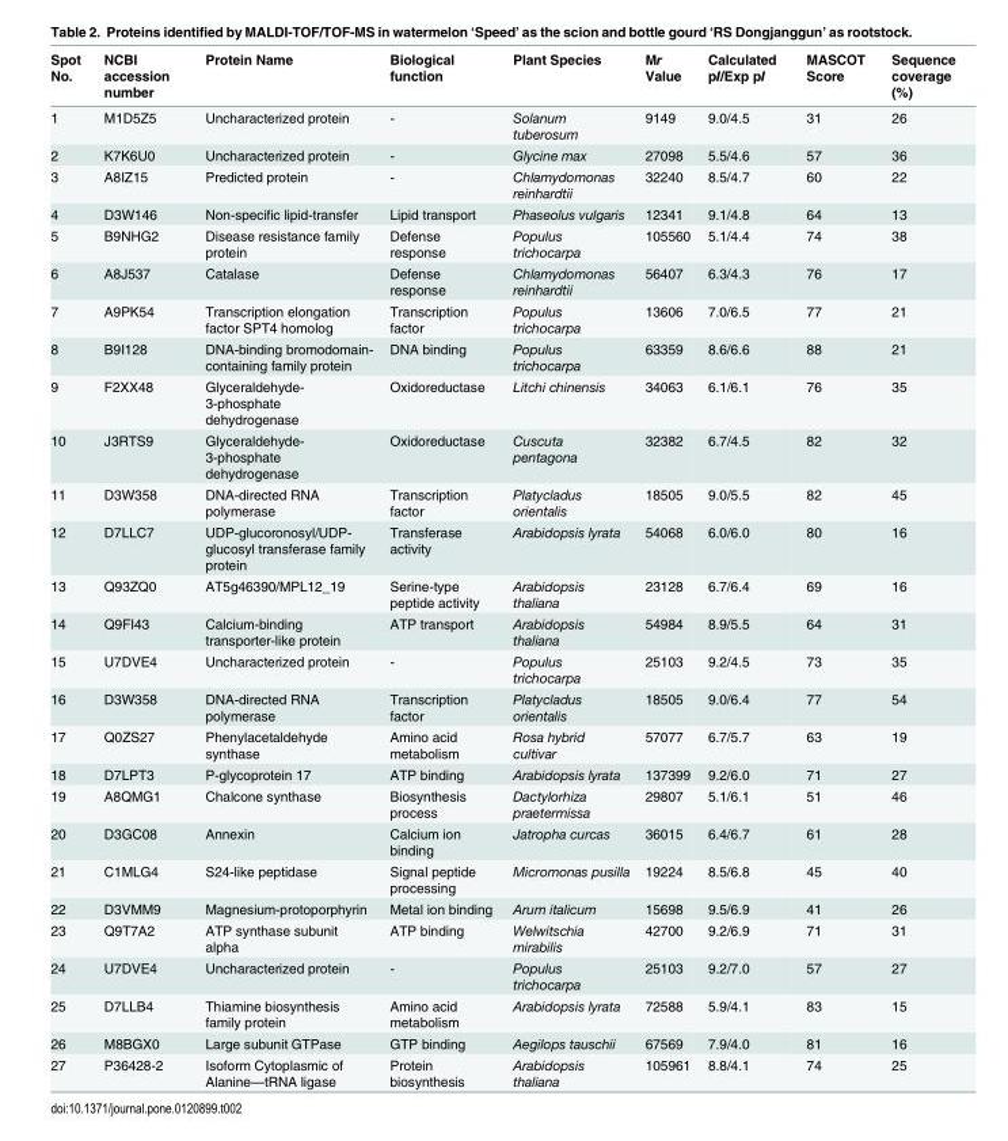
<table><thead><tr><td>Spot No.</td><td>NCBI accession number</td><td>Protein Name</td><td>Biological function</td><td>Plant Species</td><td>Mr Value</td><td>Calculated pI/Exp pI</td><td>MASCOT Score</td><td>Sequence coverage (%)</td></tr></thead><tbody><tr><td>1</td><td>M1D5Z5</td><td>Uncharacterized protein</td><td>-</td><td>Solanum tuberosum</td><td>9149</td><td>9.0/4.5</td><td>31</td><td>26</td></tr><tr><td>2</td><td>K7K6U0</td><td>Uncharacterized protein</td><td>-</td><td>Glycine max</td><td>27098</td><td>5.5/4.6</td><td>57</td><td>36</td></tr><tr><td>3</td><td>A8IZ15</td><td>Predicted protein</td><td>-</td><td>Chlamydomonas reinhardtii</td><td>32240</td><td>8.5/4.7</td><td>60</td><td>22</td></tr><tr><td>4</td><td>D3W146</td><td>Non-specific lipid-transfer</td><td>Lipid transport</td><td>Phaseolus vulgaris</td><td>12341</td><td>9.1/4.8</td><td>64</td><td>13</td></tr><tr><td>5</td><td>B9NHG2</td><td>Disease resistance family protein</td><td>Defense response</td><td>Populus trichocarpa</td><td>105560</td><td>5.1/4.4</td><td>74</td><td>38</td></tr><tr><td>6</td><td>A8J537</td><td>Catalase</td><td>Defense response</td><td>Chlamydomonas reinhardtii</td><td>56407</td><td>6.3/4.3</td><td>76</td><td>17</td></tr><tr><td>7</td><td>A9PK54</td><td>Transcription elongation factor SPT4 homolog</td><td>Transcription factor</td><td>Populus trichocarpa</td><td>13606</td><td>7.0/6.5</td><td>77</td><td>21</td></tr><tr><td>8</td><td>B9I128</td><td>DNA-binding bromodomain- containing family protein</td><td>DNA binding</td><td>Populus trichocarpa</td><td>63359</td><td>8.6/6.6</td><td>88</td><td>21</td></tr><tr><td>9</td><td>F2XX48</td><td>Glyceraldehyde- 3-phosphate dehydrogenase</td><td>Oxidoreductase</td><td>Litchi chinensis</td><td>34063</td><td>6.1/6.1</td><td>76</td><td>35</td></tr><tr><td>10</td><td>J3RTS9</td><td>Glyceraldehyde- 3-phosphate dehydrogenase</td><td>Oxidoreductase</td><td>Cuscuta pentagona</td><td>32382</td><td>6.7/4.5</td><td>82</td><td>32</td></tr><tr><td>11</td><td>D3W358</td><td>DNA-directed RNA polymerase</td><td>Transcription factor</td><td>Platycladus orientalis</td><td>18505</td><td>9.0/5.5</td><td>82</td><td>45</td></tr><tr><td>12</td><td>D7LLC7</td><td>UDP-glucoronosyl/UDP- glucosyl transferase family protein</td><td>Transferase activity</td><td>Arabidopsis lyrata</td><td>54068</td><td>6.0/6.0</td><td>80</td><td>16</td></tr><tr><td>13</td><td>Q93ZQ0</td><td>AT5g46390/MPL12_19</td><td>Serine-type peptide activity</td><td>Arabidopsis thaliana</td><td>23128</td><td>6.7/6.4</td><td>69</td><td>16</td></tr><tr><td>14</td><td>Q9FI43</td><td>Calcium-binding transporter-like protein</td><td>ATP transport</td><td>Arabidopsis thaliana</td><td>54984</td><td>8.9/5.5</td><td>64</td><td>31</td></tr><tr><td>15</td><td>U7DVE4</td><td>Uncharacterized protein</td><td>-</td><td>Populus trichocarpa</td><td>25103</td><td>9.2/4.5</td><td>73</td><td>35</td></tr><tr><td>16</td><td>D3W358</td><td>DNA-directed RNA polymerase</td><td>Transcription factor</td><td>Platycladus orientalis</td><td>18505</td><td>9.0/6.4</td><td>77</td><td>54</td></tr><tr><td>17</td><td>Q0ZS27</td><td>Phenylacetaldehyde synthase</td><td>Amino acid metabolism</td><td>Rosa hybrid cultivar</td><td>57077</td><td>6.7/5.7</td><td>63</td><td>19</td></tr><tr><td>18</td><td>D7LPT3</td><td>P-glycoprotein 17</td><td>ATP binding</td><td>Arabidopsis lyrata</td><td>137399</td><td>9.2/6.0</td><td>71</td><td>27</td></tr><tr><td>19</td><td>A8QMG1</td><td>Chalcone synthase</td><td>Biosynthesis process</td><td>Dactylorhiza praetermissa</td><td>29807</td><td>5.1/6.1</td><td>51</td><td>46</td></tr><tr><td>20</td><td>D3GC08</td><td>Annexin</td><td>Calcium ion binding</td><td>Jatropha curcas</td><td>36015</td><td>6.4/6.7</td><td>61</td><td>28</td></tr><tr><td>21</td><td>C1MLG4</td><td>S24-like peptidase</td><td>Signal peptide processing</td><td>Micromonas pusilla</td><td>19224</td><td>8.5/6.8</td><td>45</td><td>40</td></tr><tr><td>22</td><td>D3VMM9</td><td>Magnesium-protoporphyrin</td><td>Metal ion binding</td><td>Arum italicum</td><td>15698</td><td>9.5/6.9</td><td>41</td><td>26</td></tr><tr><td>23</td><td>Q9T7A2</td><td>ATP synthase subunit alpha</td><td>ATP binding</td><td>Welwitschia mirabilis</td><td>42700</td><td>9.2/6.9</td><td>71</td><td>31</td></tr><tr><td>24</td><td>U7DVE4</td><td>Uncharacterized protein</td><td>-</td><td>Populus trichocarpa</td><td>25103</td><td>9.2/7.0</td><td>57</td><td>27</td></tr><tr><td>25</td><td>D7LLB4</td><td>Thiamine biosynthesis family protein</td><td>Amino acid metabolism</td><td>Arabidopsis lyrata</td><td>72588</td><td>5.9/4.1</td><td>83</td><td>15</td></tr><tr><td>26</td><td>M8BGX0</td><td>Large subunit GTPase</td><td>GTP binding</td><td>Aegilops tauschii</td><td>67569</td><td>7.9/4.0</td><td>81</td><td>16</td></tr><tr><td>27</td><td>P36428-2</td><td>Isoform Cytoplasmic of Alanine—tRNA ligase</td><td>Protein biosynthesis</td><td>Arabidopsis thaliana</td><td>105961</td><td>8.8/4.1</td><td>74</td><td>25</td></tr></tbody></table>